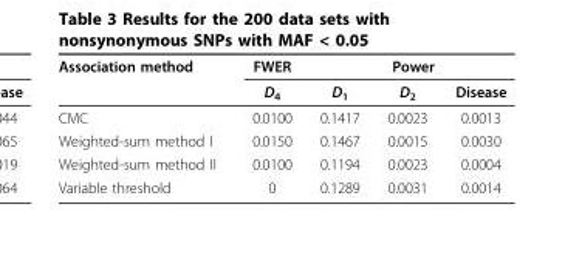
<table><thead><tr><td rowspan="2">Association method</td><td rowspan="2">FWER D<sub>4</sub></td><td colspan="3">Power</td></tr><tr><td>D<sub>1</sub></td><td>D<sub>2</sub></td><td>Disease</td></tr></thead><tbody><tr><td>CMC</td><td>0.0100</td><td>0.1417</td><td>0.0023</td><td>0.0013</td></tr><tr><td>Weighted-sum method I</td><td>0.0150</td><td>0.1467</td><td>0.0015</td><td>0.0030</td></tr><tr><td>Weighted-sum method II</td><td>0.0100</td><td>0.1194</td><td>0.0023</td><td>0.0004</td></tr><tr><td>Variable threshold</td><td>0</td><td>0.1289</td><td>0.0031</td><td>0.0014</td></tr></tbody></table>